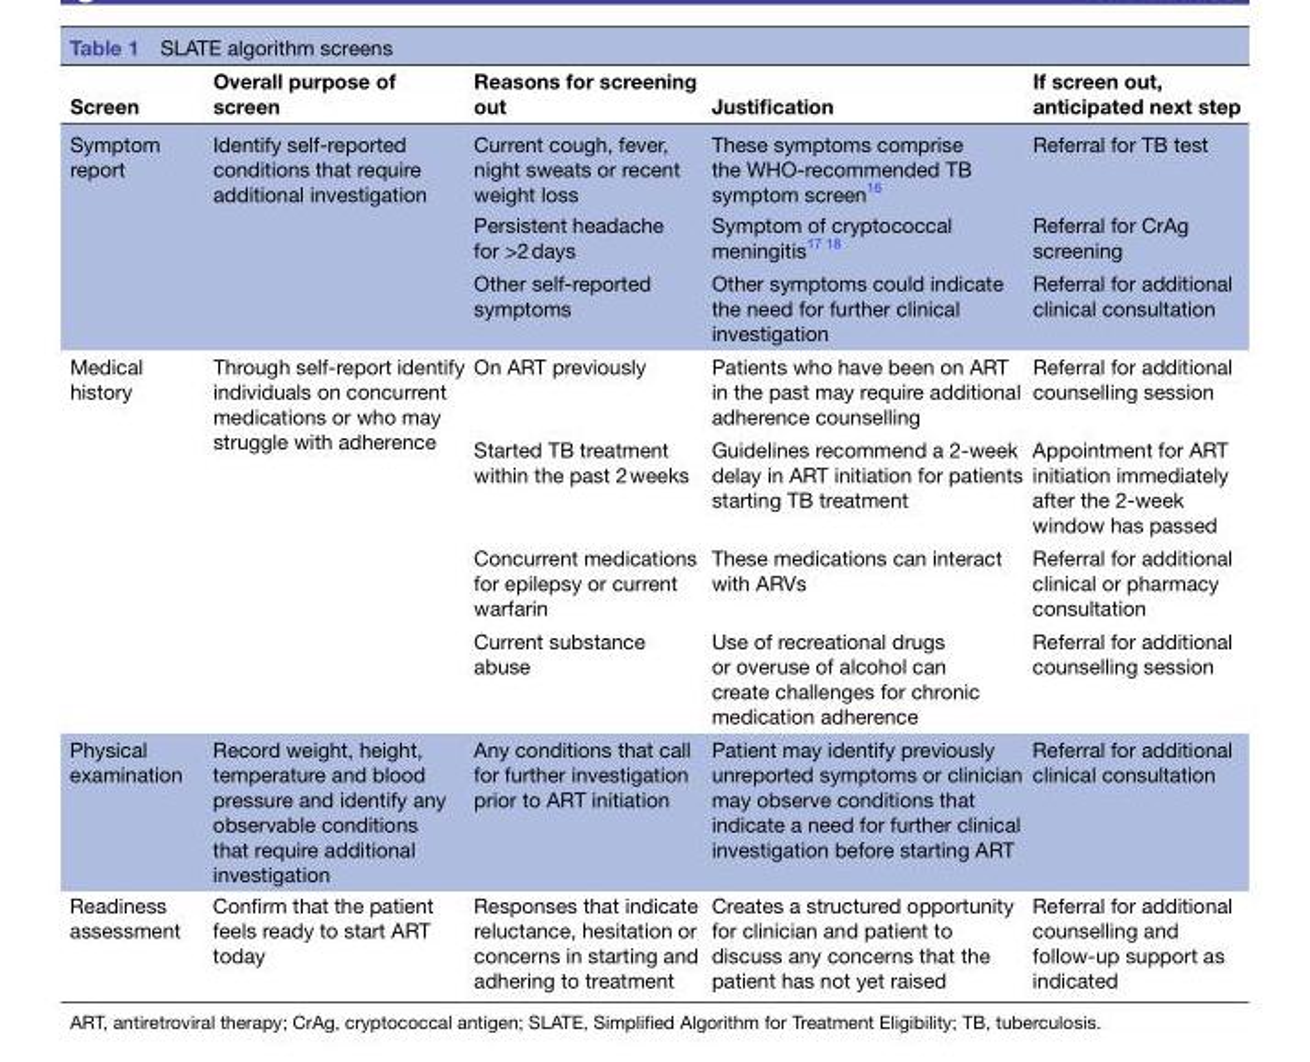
<table><thead><tr><td>Screen</td><td>Overall purpose of screen</td><td>Reasons for screening out</td><td>Justification</td><td>If screen out, anticipated next step</td></tr></thead><tbody><tr><td rowspan="3">Symptom report</td><td rowspan="3">Identify self-reported conditions that require additional investigation</td><td>Current cough, fever, night sweats or recent weight loss</td><td>These symptoms comprise the WHO-recommended TB symptom screen<sup>16</sup></td><td>Referral for TB test</td></tr><tr><td>Persistent headache for &gt;2 days</td><td>Symptom of cryptococcal meningitis<sup>17 18</sup></td><td>Referral for CrAg screening</td></tr><tr><td>Other self-reported symptoms</td><td>Other symptoms could indicate the need for further clinical investigation</td><td>Referral for additional clinical consultation</td></tr><tr><td rowspan="4">Medical history</td><td rowspan="4">Through self-report identify individuals on concurrent medications or who may struggle with adherence</td><td>On ART previously</td><td>Patients who have been on ART in the past may require additional adherence counselling</td><td>Referral for additional counselling session</td></tr><tr><td>Started TB treatment within the past 2 weeks</td><td>Guidelines recommend a 2-week delay in ART initiation for patients starting TB treatment</td><td>Appointment for ART initiation immediately after the 2-week window has passed</td></tr><tr><td>Concurrent medications for epilepsy or current warfarin</td><td>These medications can interact with ARVs</td><td>Referral for additional clinical or pharmacy consultation</td></tr><tr><td>Current substance abuse</td><td>Use of recreational drugs or overuse of alcohol can create challenges for chronic medication adherence</td><td>Referral for additional counselling session</td></tr><tr><td>Physical examination</td><td>Record weight, height, temperature and blood pressure and identify any observable conditions that require additional investigation</td><td>Any conditions that call for further investigation prior to ART initiation</td><td>Patient may identify previously unreported symptoms or clinician may observe conditions that indicate a need for further clinical investigation before starting ART</td><td>Referral for additional clinical consultation</td></tr><tr><td>Readiness assessment</td><td>Confirm that the patient feels ready to start ART today</td><td>Responses that indicate reluctance, hesitation or concerns in starting and adhering to treatment</td><td>Creates a structured opportunity for clinician and patient to discuss any concerns that the patient has not yet raised</td><td>Referral for additional counselling and follow-up support as indicated</td></tr></tbody></table>